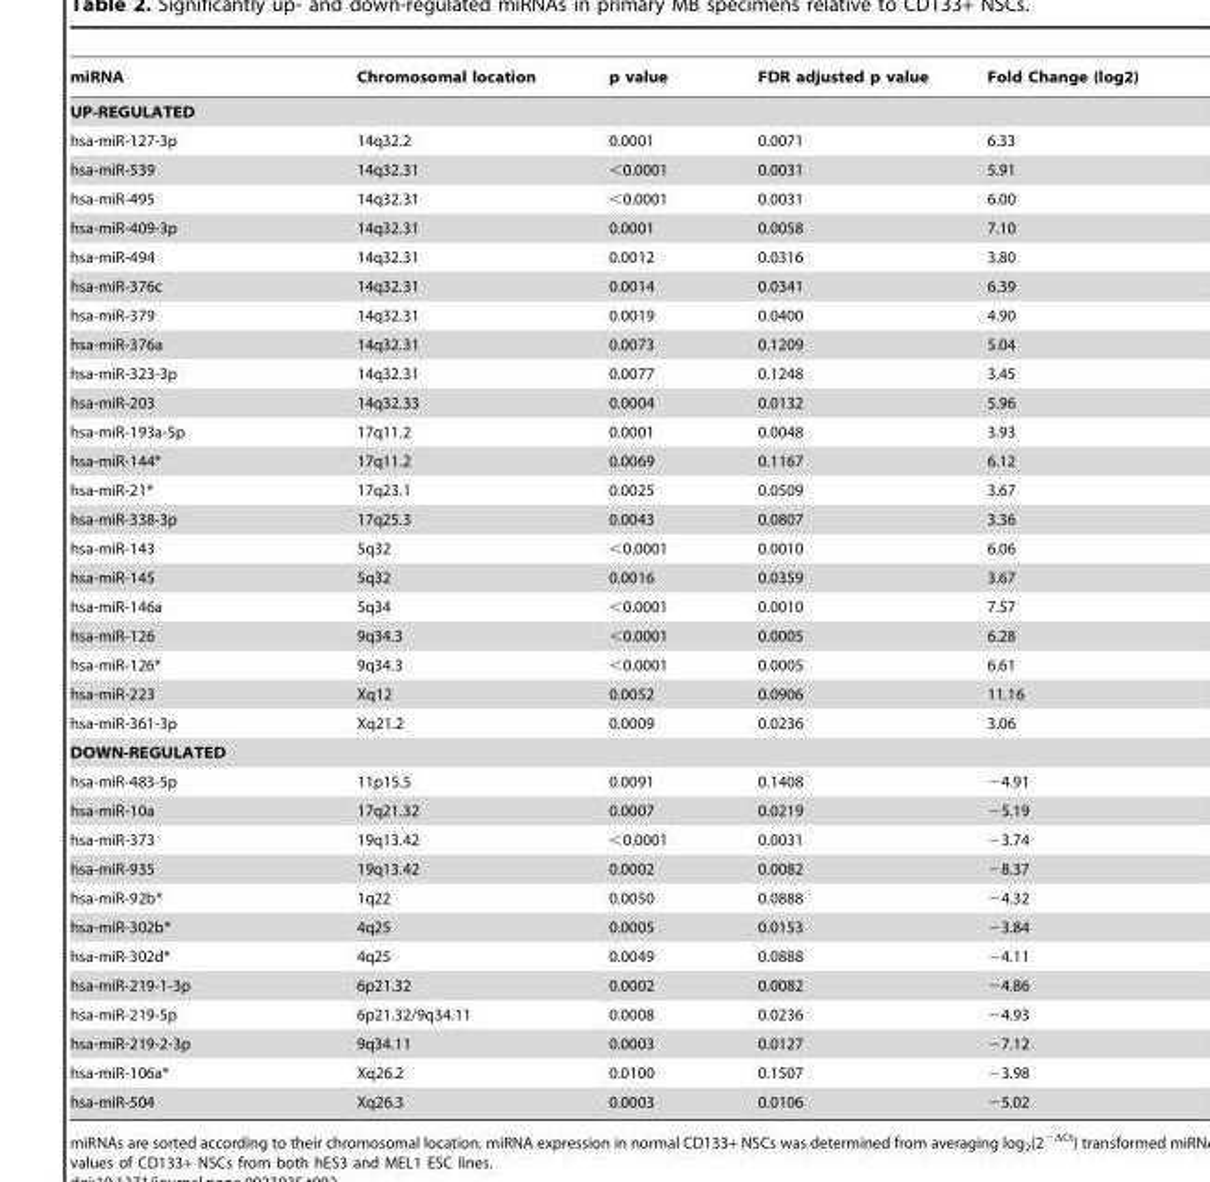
<table><thead><tr><td>miRNA</td><td>Chromosomal location</td><td>p value</td><td>FDR adjusted p value</td><td>Fold Change (log2)</td></tr></thead><tbody><tr><td colspan="5">UP-REGULATED</td></tr><tr><td>hsa-miR-127-3p</td><td>14q32.2</td><td>0.0001</td><td>0.0071</td><td>6.33</td></tr><tr><td>hsa-miR-539</td><td>14q32.31</td><td>&lt;0.0001</td><td>0.0031</td><td>5.91</td></tr><tr><td>hsa-miR-495</td><td>14q32.31</td><td>&lt;0.0001</td><td>0.0031</td><td>6.00</td></tr><tr><td>hsa-miR-409-3p</td><td>14q32.31</td><td>0.0001</td><td>0.0058</td><td>7.10</td></tr><tr><td>hsa-miR-494</td><td>14q32.31</td><td>0.0012</td><td>0.0316</td><td>3.80</td></tr><tr><td>hsa-miR-376c</td><td>14q32.31</td><td>0.0014</td><td>0.0341</td><td>6.39</td></tr><tr><td>hsa-miR-379</td><td>14q32.31</td><td>0.0019</td><td>0.0400</td><td>4.90</td></tr><tr><td>hsa-miR-376a</td><td>14q32.31</td><td>0.0073</td><td>0.1209</td><td>5.04</td></tr><tr><td>hsa-miR-323-3p</td><td>14q32.31</td><td>0.0077</td><td>0.1248</td><td>3.45</td></tr><tr><td>hsa-miR-203</td><td>14q32.33</td><td>0.0004</td><td>0.0132</td><td>5.96</td></tr><tr><td>hsa-miR-193a-5p</td><td>17q11.2</td><td>0.0001</td><td>0.0048</td><td>3.93</td></tr><tr><td>hsa-miR-144*</td><td>17q11.2</td><td>0.0069</td><td>0.1167</td><td>6.12</td></tr><tr><td>hsa-miR-21*</td><td>17q23.1</td><td>0.0025</td><td>0.0509</td><td>3.67</td></tr><tr><td>hsa-miR-338-3p</td><td>17q25.3</td><td>0.0043</td><td>0.0807</td><td>3.36</td></tr><tr><td>hsa-miR-143</td><td>5q32</td><td>&lt;0.0001</td><td>0.0010</td><td>6.06</td></tr><tr><td>hsa-miR-145</td><td>5q32</td><td>0.0016</td><td>0.0359</td><td>3.67</td></tr><tr><td>hsa-miR-146a</td><td>5q34</td><td>&lt;0.0001</td><td>0.0010</td><td>7.57</td></tr><tr><td>hsa-miR-126</td><td>9q34.3</td><td>&lt;0.0001</td><td>0.0005</td><td>6.28</td></tr><tr><td>hsa-miR-126*</td><td>9q34.3</td><td>&lt;0.0001</td><td>0.0005</td><td>6.61</td></tr><tr><td>hsa-miR-223</td><td>Xq12</td><td>0.0052</td><td>0.0906</td><td>11.16</td></tr><tr><td>hsa-miR-361-3p</td><td>Xq21.2</td><td>0.0009</td><td>0.0236</td><td>3.06</td></tr><tr><td colspan="5">DOWN-REGULATED</td></tr><tr><td>hsa-miR-483-5p</td><td>11p15.5</td><td>0.0091</td><td>0.1408</td><td>−4.91</td></tr><tr><td>hsa-miR-10a</td><td>17q21.32</td><td>0.0007</td><td>0.0219</td><td>−5.19</td></tr><tr><td>hsa-miR-373</td><td>19q13.42</td><td>&lt;0.0001</td><td>0.0031</td><td>−3.74</td></tr><tr><td>hsa-miR-935</td><td>19q13.42</td><td>0.0002</td><td>0.0082</td><td>−8.37</td></tr><tr><td>hsa-miR-92b*</td><td>1q22</td><td>0.0050</td><td>0.0888</td><td>−4.32</td></tr><tr><td>hsa-miR-302b*</td><td>4q25</td><td>0.0005</td><td>0.0153</td><td>−3.84</td></tr><tr><td>hsa-miR-302d*</td><td>4q25</td><td>0.0049</td><td>0.0888</td><td>−4.11</td></tr><tr><td>hsa-miR-219-1-3p</td><td>6p21.32</td><td>0.0002</td><td>0.0082</td><td>−4.86</td></tr><tr><td>hsa-miR-219-5p</td><td>6p21.32/9q34.11</td><td>0.0008</td><td>0.0236</td><td>−4.93</td></tr><tr><td>hsa-miR-219-2-3p</td><td>9q34.11</td><td>0.0003</td><td>0.0127</td><td>−7.12</td></tr><tr><td>hsa-miR-106a*</td><td>Xq26.2</td><td>0.0100</td><td>0.1507</td><td>−3.98</td></tr><tr><td>hsa-miR-504</td><td>Xq26.3</td><td>0.0003</td><td>0.0106</td><td>−5.02</td></tr></tbody></table>